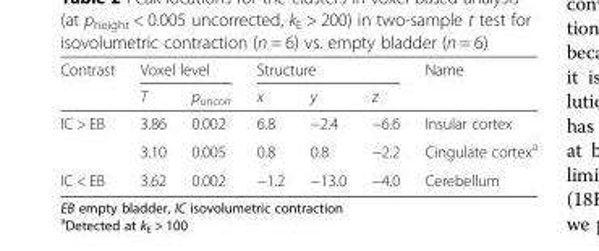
<table><thead><tr><td rowspan="2">Contrast</td><td colspan="2">Voxel level</td><td colspan="3">Structure</td><td rowspan="2">Name</td></tr><tr><td>T</td><td>p<sub>uncorr</sub></td><td>x</td><td>y</td><td>z</td></tr></thead><tbody><tr><td rowspan="2">IC &gt; EB</td><td>3.86</td><td>0.002</td><td>6.8</td><td>−2.4</td><td>−6.6</td><td>Insular cortex</td></tr><tr><td>3.10</td><td>0.005</td><td>0.8</td><td>0.8</td><td>−2.2</td><td>Cingulate cortex<sup>a</sup></td></tr><tr><td>IC &lt; EB</td><td>3.62</td><td>0.002</td><td>−1.2</td><td>−13.0</td><td>−4.0</td><td>Cerebellum</td></tr></tbody></table>